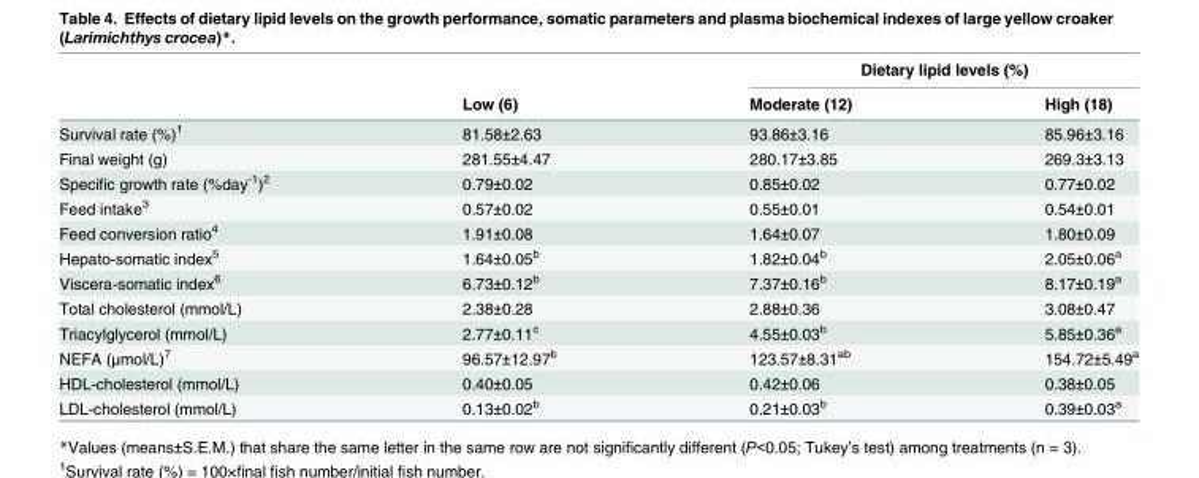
<table><thead><tr><td rowspan="2"></td><td rowspan="2">Low (6)</td><td colspan="2">Dietary lipid levels (%)</td></tr><tr><td>Moderate (12)</td><td>High (18)</td></tr></thead><tbody><tr><td>Survival rate (%)<sup>1</sup></td><td>81.58±2.63</td><td>93.86±3.16</td><td>85.96±3.16</td></tr><tr><td>Final weight (g)</td><td>281.55±4.47</td><td>280.17±3.85</td><td>269.3±3.13</td></tr><tr><td>Specific growth rate (%day<sup>-1</sup>)<sup>2</sup></td><td>0.79±0.02</td><td>0.85±0.02</td><td>0.77±0.02</td></tr><tr><td>Feed intake<sup>3</sup></td><td>0.57±0.02</td><td>0.55±0.01</td><td>0.54±0.01</td></tr><tr><td>Feed conversion ratio<sup>4</sup></td><td>1.91±0.08</td><td>1.64±0.07</td><td>1.80±0.09</td></tr><tr><td>Hepato-somatic index<sup>5</sup></td><td>1.64±0.05<sup>b</sup></td><td>1.82±0.04<sup>b</sup></td><td>2.05±0.06<sup>a</sup></td></tr><tr><td>Viscera-somatic index<sup>6</sup></td><td>6.73±0.12<sup>b</sup></td><td>7.37±0.16<sup>b</sup></td><td>8.17±0.19<sup>a</sup></td></tr><tr><td>Total cholesterol (mmol/L)</td><td>2.38±0.28</td><td>2.88±0.36</td><td>3.08±0.47</td></tr><tr><td>Triacylglycerol (mmol/L)</td><td>2.77±0.11<sup>c</sup></td><td>4.55±0.03<sup>b</sup></td><td>5.85±0.36<sup>a</sup></td></tr><tr><td>NEFA (μmol/L)<sup>7</sup></td><td>96.57±12.97<sup>b</sup></td><td>123.57±8.31<sup>ab</sup></td><td>154.72±5.49<sup>a</sup></td></tr><tr><td>HDL-cholesterol (mmol/L)</td><td>0.40±0.05</td><td>0.42±0.06</td><td>0.38±0.05</td></tr><tr><td>LDL-cholesterol (mmol/L)</td><td>0.13±0.02<sup>b</sup></td><td>0.21±0.03<sup>b</sup></td><td>0.39±0.03<sup>a</sup></td></tr></tbody></table>